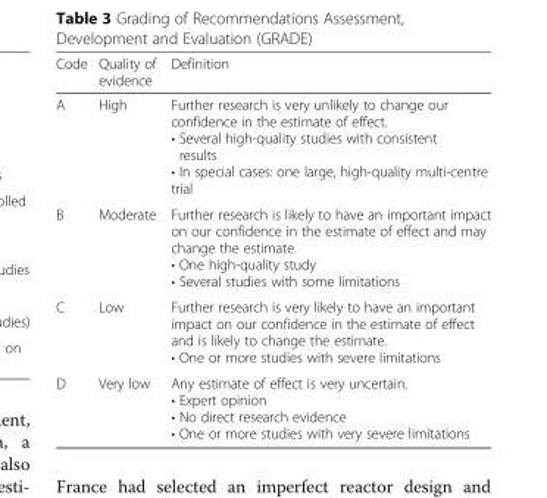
<table><thead><tr><td>Code</td><td>Quality of evidence</td><td>Definition</td></tr></thead><tbody><tr><td>A</td><td>High</td><td>Further research is very unlikely to change our confidence in the estimate of effect. • Several high-quality studies with consistent results • In special cases: one large, high-quality multi-centre trial</td></tr><tr><td>B</td><td>Moderate</td><td>Further research is likely to have an important impact on our confidence in the estimate of effect and may change the estimate. • One high-quality study • Several studies with some limitations</td></tr><tr><td>C</td><td>Low</td><td>Further research is very likely to have an important impact on our confidence in the estimate of effect and is likely to change the estimate. • One or more studies with severe limitations</td></tr><tr><td>D</td><td>Very low</td><td>Any estimate of effect is very uncertain. • Expert opinion • No direct research evidence • One or more studies with very severe limitations</td></tr></tbody></table>